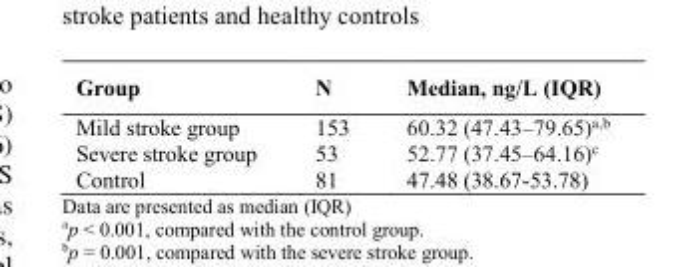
<table><thead><tr><td>Group</td><td>N</td><td>Median, ng/L (IQR)</td></tr></thead><tbody><tr><td>Mild stroke group</td><td>153</td><td>60.32 (47.43–79.65)<sup>a</sup>,<sup>b</sup></td></tr><tr><td>Severe stroke group</td><td>53</td><td>52.77 (37.45–64.16)<sup>c</sup></td></tr><tr><td>Control</td><td>81</td><td>47.48 (38.67-53.78)</td></tr></tbody></table>